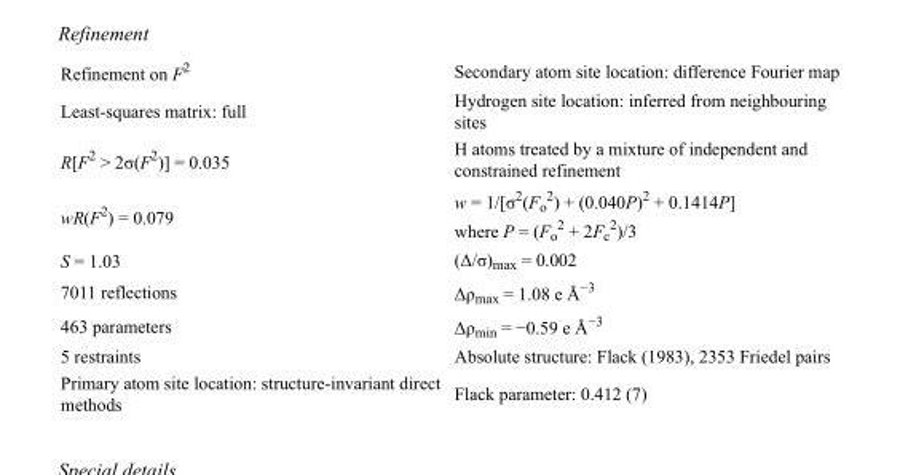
<table><tbody><tr><td>Refinement on F<sup>2</sup></td><td>Secondary atom site location: difference Fourier map</td></tr><tr><td>Least-squares matrix: full</td><td>Hydrogen site location: inferred from neighbouring sites</td></tr><tr><td>R[F<sup>2</sup> &gt; 2σ(F<sup>2</sup>)] = 0.035</td><td>H atoms treated by a mixture of independent and constrained refinement</td></tr><tr><td>wR(F<sup>2</sup>) = 0.079</td><td>w = 1/[σ<sup>2</sup>(F<sub>o</sub> <sup>2</sup>) + (0.040P)<sup>2</sup> + 0.1414P] where P = (F<sub>o</sub> <sup>2</sup> + 2F<sub>c</sub> <sup>2</sup>)/3</td></tr><tr><td>S = 1.03</td><td>(Δ/σ)<sub>max</sub> = 0.002</td></tr><tr><td>7011 reflections</td><td>Δρ<sub>max</sub> = 1.08 e Å<sup>−3</sup></td></tr><tr><td>463 parameters</td><td>Δρ<sub>min</sub> = −0.59 e Å<sup>−3</sup></td></tr><tr><td>5 restraints</td><td>Absolute structure: Flack (1983), 2353 Friedel pairs</td></tr><tr><td>Primary atom site location: structure-invariant direct methods</td><td>Flack parameter: 0.412 (7)</td></tr></tbody></table>